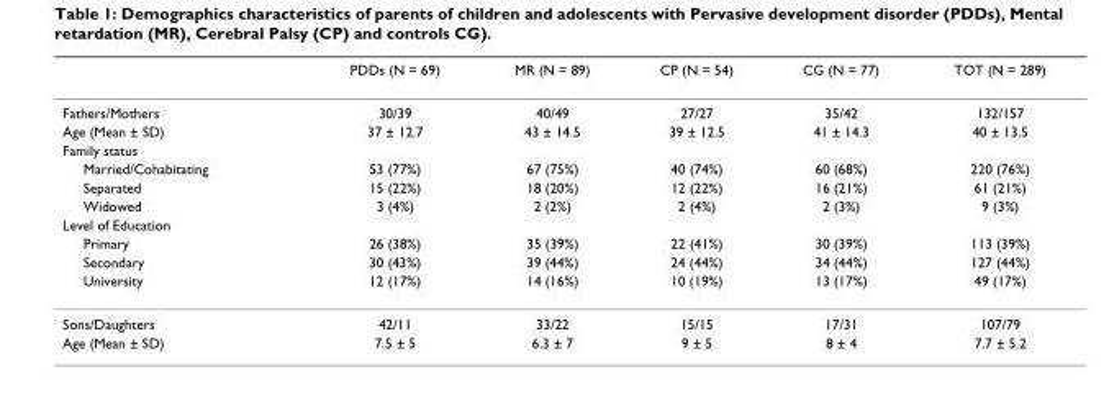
<table><thead><tr><td></td><td>PDDs (N = 69)</td><td>MR (N = 89)</td><td>CP (N = 54)</td><td>CG (N = 77)</td><td>TOT (N = 289)</td></tr></thead><tbody><tr><td>Fathers/Mothers</td><td>30/39</td><td>40/49</td><td>27/27</td><td>35/42</td><td>132/157</td></tr><tr><td>Age (Mean ± SD)</td><td>37 ± 12.7</td><td>43 ± 14.5</td><td>39 ± 12.5</td><td>41 ± 14.3</td><td>40 ± 13.5</td></tr><tr><td colspan="6">Family status</td></tr><tr><td>Married/Cohabitating</td><td>53 (77%)</td><td>67 (75%)</td><td>40 (74%)</td><td>60 (68%)</td><td>220 (76%)</td></tr><tr><td>Separated</td><td>15 (22%)</td><td>18 (20%)</td><td>12 (22%)</td><td>16 (21%)</td><td>61 (21%)</td></tr><tr><td>Widowed</td><td>3 (4%)</td><td>2 (2%)</td><td>2 (4%)</td><td>2 (3%)</td><td>9 (3%)</td></tr><tr><td colspan="6">Level of Education</td></tr><tr><td>Primary</td><td>26 (38%)</td><td>35 (39%)</td><td>22 (41%)</td><td>30 (39%)</td><td>113 (39%)</td></tr><tr><td>Secondary</td><td>30 (43%)</td><td>39 (44%)</td><td>24 (44%)</td><td>34 (44%)</td><td>127 (44%)</td></tr><tr><td>University</td><td>12 (17%)</td><td>14 (16%)</td><td>10 (19%)</td><td>13 (17%)</td><td>49 (17%)</td></tr><tr><td>Sons/Daughters</td><td>42/11</td><td>33/22</td><td>15/15</td><td>17/31</td><td>107/79</td></tr><tr><td>Age (Mean ± SD)</td><td>7.5 ± 5</td><td>6.3 ± 7</td><td>9 ± 5</td><td>8 ± 4</td><td>7.7 ± 5.2</td></tr></tbody></table>